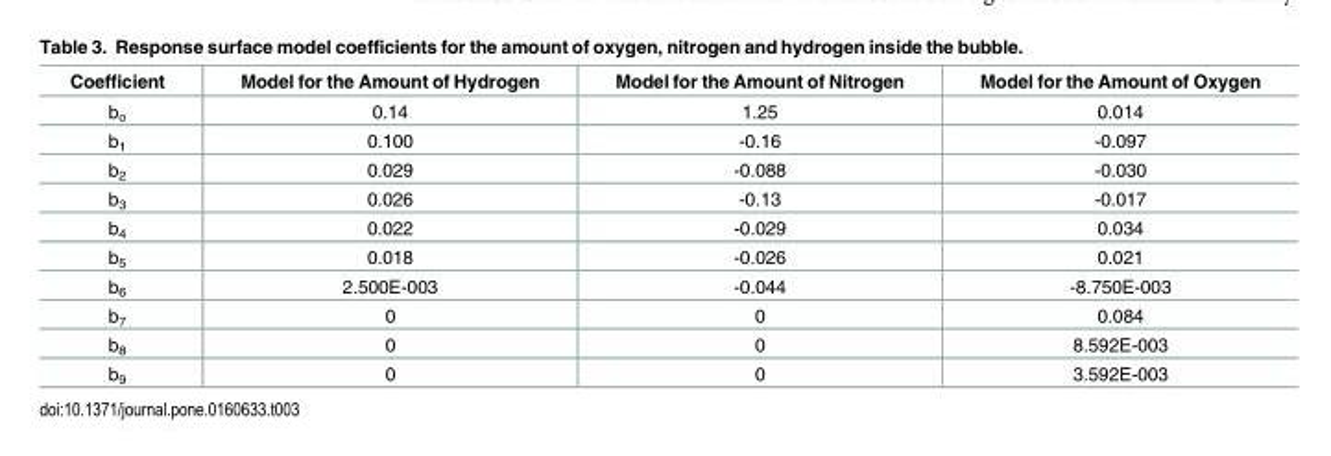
<table><thead><tr><td>Coefficient</td><td>Model for the Amount of Hydrogen</td><td>Model for the Amount of Nitrogen</td><td>Model for the Amount of Oxygen</td></tr></thead><tbody><tr><td>b<sub>o</sub></td><td>0.14</td><td>1.25</td><td>0.014</td></tr><tr><td>b<sub>1</sub></td><td>0.100</td><td>-0.16</td><td>-0.097</td></tr><tr><td>b<sub>2</sub></td><td>0.029</td><td>-0.088</td><td>-0.030</td></tr><tr><td>b<sub>3</sub></td><td>0.026</td><td>-0.13</td><td>-0.017</td></tr><tr><td>b<sub>4</sub></td><td>0.022</td><td>-0.029</td><td>0.034</td></tr><tr><td>b<sub>5</sub></td><td>0.018</td><td>-0.026</td><td>0.021</td></tr><tr><td>b<sub>6</sub></td><td>2.500E-003</td><td>-0.044</td><td>-8.750E-003</td></tr><tr><td>b<sub>7</sub></td><td>0</td><td>0</td><td>0.084</td></tr><tr><td>b<sub>8</sub></td><td>0</td><td>0</td><td>8.592E-003</td></tr><tr><td>b<sub>9</sub></td><td>0</td><td>0</td><td>3.592E-003</td></tr></tbody></table>